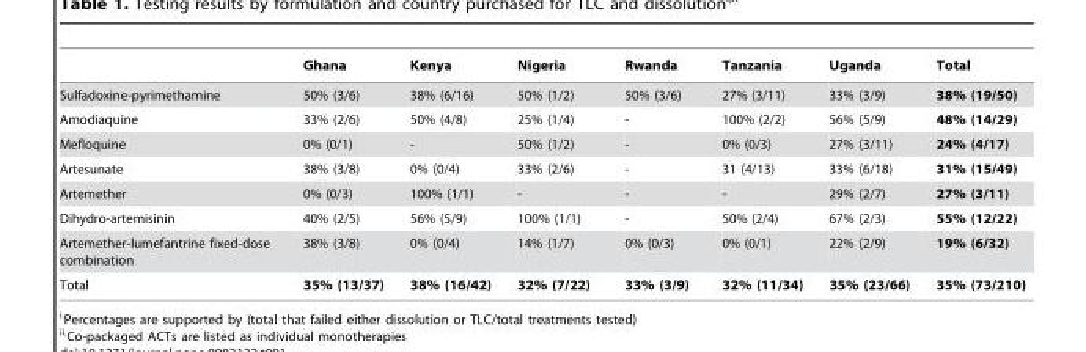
<table><thead><tr><td></td><td>Ghana</td><td>Kenya</td><td>Nigeria</td><td>Rwanda</td><td>Tanzania</td><td>Uganda</td><td>Total</td></tr></thead><tbody><tr><td>Sulfadoxine-pyrimethamine</td><td>50% (3/6)</td><td>38% (6/16)</td><td>50% (1/2)</td><td>50% (3/6)</td><td>27% (3/11)</td><td>33% (3/9)</td><td>38% (19/50)</td></tr><tr><td>Amodiaquine</td><td>33% (2/6)</td><td>50% (4/8)</td><td>25% (1/4)</td><td>-</td><td>100% (2/2)</td><td>56% (5/9)</td><td>48% (14/29)</td></tr><tr><td>Mefloquine</td><td>0% (0/1)</td><td>-</td><td>50% (1/2)</td><td>-</td><td>0% (0/3)</td><td>27% (3/11)</td><td>24% (4/17)</td></tr><tr><td>Artesunate</td><td>38% (3/8)</td><td>0% (0/4)</td><td>33% (2/6)</td><td>-</td><td>31 (4/13)</td><td>33% (6/18)</td><td>31% (15/49)</td></tr><tr><td>Artemether</td><td>0% (0/3)</td><td>100% (1/1)</td><td>-</td><td>-</td><td>-</td><td>29% (2/7)</td><td>27% (3/11)</td></tr><tr><td>Dihydro-artemisinin</td><td>40% (2/5)</td><td>56% (5/9)</td><td>100% (1/1)</td><td>-</td><td>50% (2/4)</td><td>67% (2/3)</td><td>55% (12/22)</td></tr><tr><td>Artemether-lumefantrine fixed-dose combination</td><td>38% (3/8)</td><td>0% (0/4)</td><td>14% (1/7)</td><td>0% (0/3)</td><td>0% (0/1)</td><td>22% (2/9)</td><td>19% (6/32)</td></tr><tr><td>Total</td><td>35% (13/37)</td><td>38% (16/42)</td><td>32% (7/22)</td><td>33% (3/9)</td><td>32% (11/34)</td><td>35% (23/66)</td><td>35% (73/210)</td></tr></tbody></table>